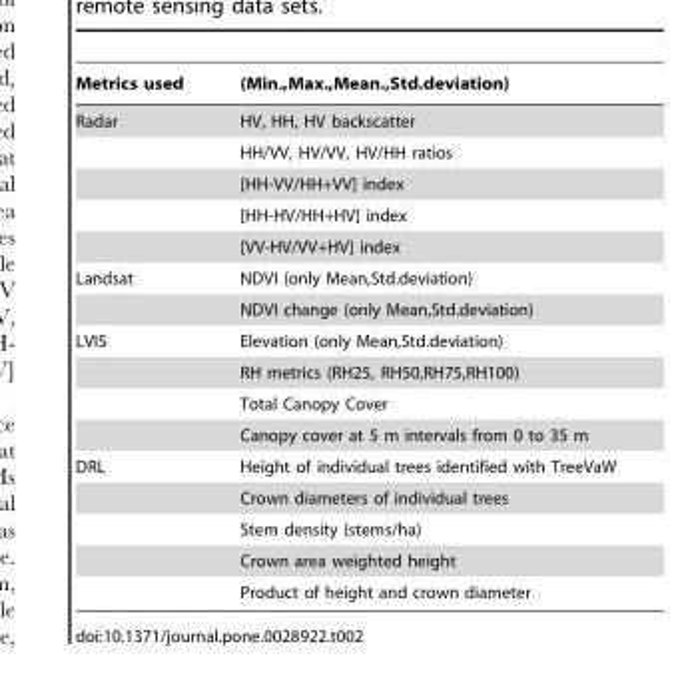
<table><thead><tr><td>Metrics used</td><td>(Min.,Max.,Mean.,Std.deviation)</td></tr></thead><tbody><tr><td rowspan="5">Radar</td><td>HV, HH, HV backscatter</td></tr><tr><td>HH/VV, HV/VV, HV/HH ratios</td></tr><tr><td>[HH-VV/HH+VV] index</td></tr><tr><td>[HH-HV/HH+HV] index</td></tr><tr><td>[VV-HV/VV+HV] index</td></tr><tr><td rowspan="2">Landsat</td><td>NDVI (only Mean,Std.deviation)</td></tr><tr><td>NDVI change (only Mean,Std.deviation)</td></tr><tr><td rowspan="4">LVIS</td><td>Elevation (only Mean,Std.deviation)</td></tr><tr><td>RH metrics (RH25, RH50,RH75,RH100)</td></tr><tr><td>Total Canopy Cover</td></tr><tr><td>Canopy cover at 5 m intervals from 0 to 35 m</td></tr><tr><td rowspan="5">DRL</td><td>Height of individual trees identified with TreeVaW</td></tr><tr><td>Crown diameters of individual trees</td></tr><tr><td>Stem density (stems/ha)</td></tr><tr><td>Crown area weighted height</td></tr><tr><td>Product of height and crown diameter</td></tr></tbody></table>